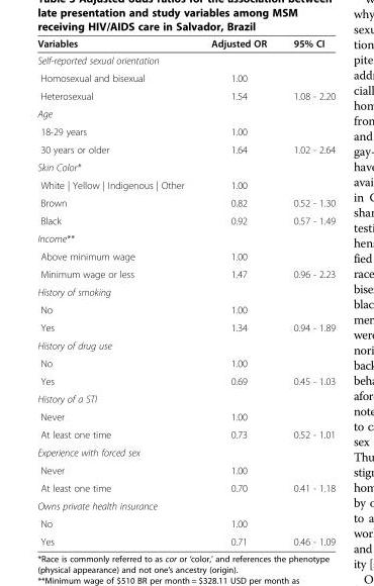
<table><thead><tr><td>Variables</td><td>Adjusted OR</td><td>95% CI</td></tr></thead><tbody><tr><td colspan="3">Self-reported sexual orientation</td></tr><tr><td>Homosexual and bisexual</td><td>1.00</td><td></td></tr><tr><td>Heterosexual</td><td>1.54</td><td>1.08 - 2.20</td></tr><tr><td colspan="3">Age</td></tr><tr><td>18-29 years</td><td>1.00</td><td></td></tr><tr><td>30 years or older</td><td>1.64</td><td>1.02 - 2.64</td></tr><tr><td colspan="3">Skin Color*</td></tr><tr><td>White | Yellow | Indigenous | Other</td><td>1.00</td><td></td></tr><tr><td>Brown</td><td>0.82</td><td>0.52 - 1.30</td></tr><tr><td>Black</td><td>0.92</td><td>0.57 - 1.49</td></tr><tr><td colspan="3">Income**</td></tr><tr><td>Above minimum wage</td><td>1.00</td><td></td></tr><tr><td>Minimum wage or less</td><td>1.47</td><td>0.96 - 2.23</td></tr><tr><td colspan="3">History of smoking</td></tr><tr><td>No</td><td>1.00</td><td></td></tr><tr><td>Yes</td><td>1.34</td><td>0.94 - 1.89</td></tr><tr><td colspan="3">History of drug use</td></tr><tr><td>No</td><td>1.00</td><td></td></tr><tr><td>Yes</td><td>0.69</td><td>0.45 - 1.03</td></tr><tr><td colspan="3">History of a STI</td></tr><tr><td>Never</td><td>1.00</td><td></td></tr><tr><td>At least one time</td><td>0.73</td><td>0.52 - 1.01</td></tr><tr><td colspan="3">Experience with forced sex</td></tr><tr><td>Never</td><td>1.00</td><td></td></tr><tr><td>At least one time</td><td>0.70</td><td>0.41 - 1.18</td></tr><tr><td colspan="3">Owns private health insurance</td></tr><tr><td>No</td><td>1.00</td><td></td></tr><tr><td>Yes</td><td>0.71</td><td>0.46 - 1.09</td></tr></tbody></table>